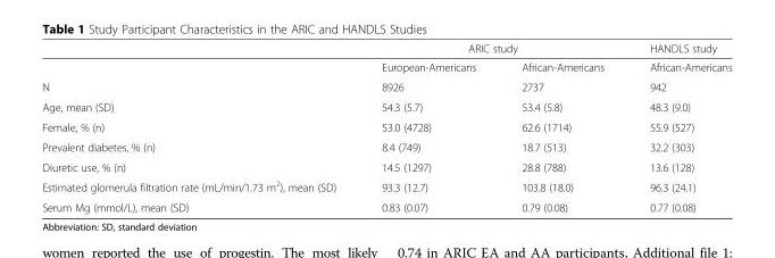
<table><thead><tr><td rowspan="2"></td><td colspan="2">ARIC study</td><td rowspan="2">HANDLS study African-Americans</td></tr><tr><td>European-Americans</td><td>African-Americans</td></tr></thead><tbody><tr><td>N</td><td>8926</td><td>2737</td><td>942</td></tr><tr><td>Age, mean (SD)</td><td>54.3 (5.7)</td><td>53.4 (5.8)</td><td>48.3 (9.0)</td></tr><tr><td>Female, % (n)</td><td>53.0 (4728)</td><td>62.6 (1714)</td><td>55.9 (527)</td></tr><tr><td>Prevalent diabetes, % (n)</td><td>8.4 (749)</td><td>18.7 (513)</td><td>32.2 (303)</td></tr><tr><td>Diuretic use, % (n)</td><td>14.5 (1297)</td><td>28.8 (788)</td><td>13.6 (128)</td></tr><tr><td>Estimated glomerula filtration rate (mL/min/1.73 m<sup>2</sup>), mean (SD)</td><td>93.3 (12.7)</td><td>103.8 (18.0)</td><td>96.3 (24.1)</td></tr><tr><td>Serum Mg (mmol/L), mean (SD)</td><td>0.83 (0.07)</td><td>0.79 (0.08)</td><td>0.77 (0.08)</td></tr></tbody></table>